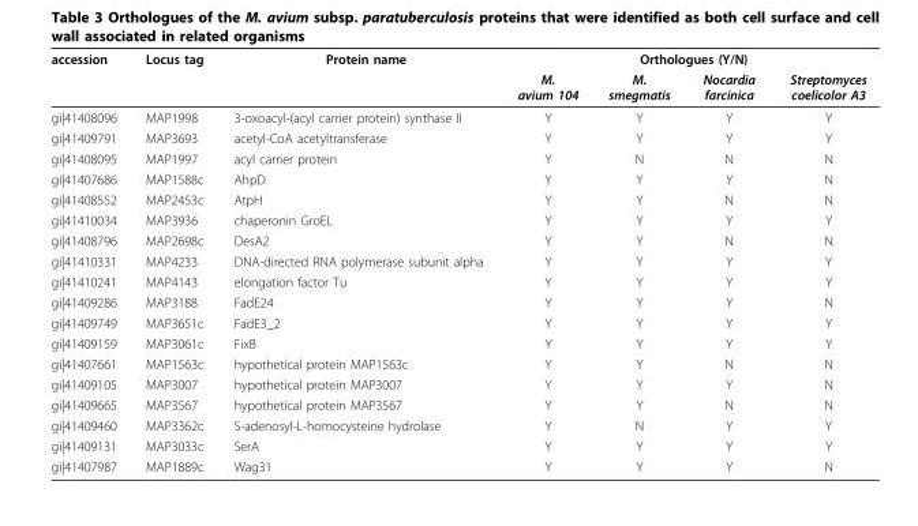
<table><thead><tr><td rowspan="2">accession</td><td rowspan="2">Locus tag</td><td rowspan="2">Protein name</td><td colspan="4">Orthologues (Y/N)</td></tr><tr><td>M. avium 104</td><td>M. smegmatis</td><td>Nocardia farcinica</td><td>Streptomyces coelicolor A3</td></tr></thead><tbody><tr><td>gi|41408096</td><td>MAP1998</td><td>3-oxoacyl-(acyl carrier protein) synthase II</td><td>Y</td><td>Y</td><td>Y</td><td>Y</td></tr><tr><td>gi|41409791</td><td>MAP3693</td><td>acetyl-CoA acetyltransferase</td><td>Y</td><td>Y</td><td>Y</td><td>Y</td></tr><tr><td>gi|41408095</td><td>MAP1997</td><td>acyl carrier protein</td><td>Y</td><td>N</td><td>N</td><td>N</td></tr><tr><td>gi|41407686</td><td>MAP1588c</td><td>AhpD</td><td>Y</td><td>Y</td><td>Y</td><td>N</td></tr><tr><td>gi|41408552</td><td>MAP2453c</td><td>AtpH</td><td>Y</td><td>Y</td><td>N</td><td>N</td></tr><tr><td>gi|41410034</td><td>MAP3936</td><td>chaperonin GroEL</td><td>Y</td><td>Y</td><td>Y</td><td>Y</td></tr><tr><td>gi|41408796</td><td>MAP2698c</td><td>DesA2</td><td>Y</td><td>Y</td><td>N</td><td>N</td></tr><tr><td>gi|41410331</td><td>MAP4233</td><td>DNA-directed RNA polymerase subunit alpha</td><td>Y</td><td>Y</td><td>Y</td><td>Y</td></tr><tr><td>gi|41410241</td><td>MAP4143</td><td>elongation factor Tu</td><td>Y</td><td>Y</td><td>Y</td><td>Y</td></tr><tr><td>gi|41409286</td><td>MAP3188</td><td>FadE24</td><td>Y</td><td>Y</td><td>Y</td><td>N</td></tr><tr><td>gi|41409749</td><td>MAP3651c</td><td>FadE3_2</td><td>Y</td><td>Y</td><td>Y</td><td>Y</td></tr><tr><td>gi|41409159</td><td>MAP3061c</td><td>FixB</td><td>Y</td><td>Y</td><td>Y</td><td>Y</td></tr><tr><td>gi|41407661</td><td>MAP1563c</td><td>hypothetical protein MAP1563c</td><td>Y</td><td>Y</td><td>N</td><td>N</td></tr><tr><td>gi|41409105</td><td>MAP3007</td><td>hypothetical protein MAP3007</td><td>Y</td><td>Y</td><td>Y</td><td>N</td></tr><tr><td>gi|41409665</td><td>MAP3567</td><td>hypothetical protein MAP3567</td><td>Y</td><td>Y</td><td>N</td><td>N</td></tr><tr><td>gi|41409460</td><td>MAP3362c</td><td>S-adenosyl-L-homocysteine hydrolase</td><td>Y</td><td>N</td><td>Y</td><td>Y</td></tr><tr><td>gi|41409131</td><td>MAP3033c</td><td>SerA</td><td>Y</td><td>Y</td><td>Y</td><td>Y</td></tr><tr><td>gi|41407987</td><td>MAP1889c</td><td>Wag31</td><td>Y</td><td>Y</td><td>Y</td><td>N</td></tr></tbody></table>